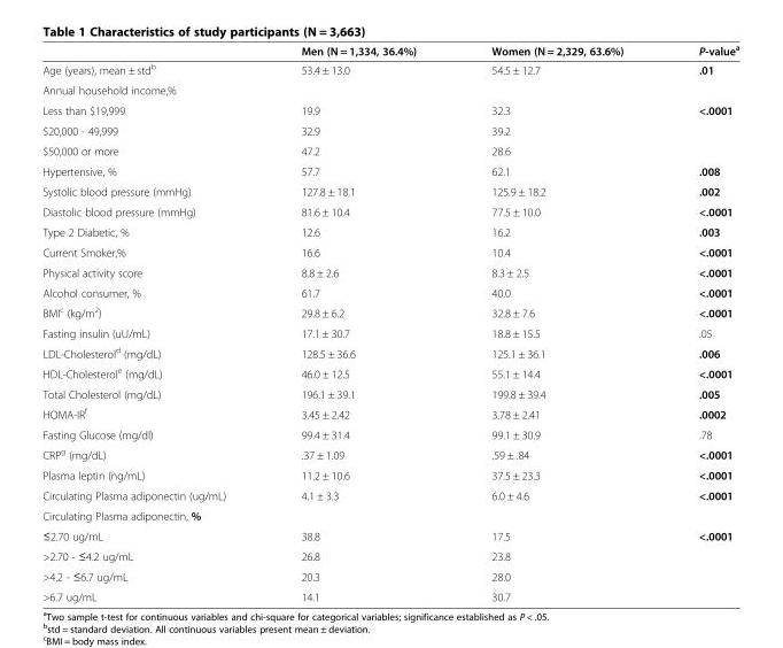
<table><thead><tr><td></td><td>Men (N = 1,334, 36.4%)</td><td>Women (N = 2,329, 63.6%)</td><td>P-value<sup>a</sup></td></tr></thead><tbody><tr><td>Age (years), mean ± std<sup>b</sup></td><td>53.4 ± 13.0</td><td>54.5 ± 12.7</td><td>.01</td></tr><tr><td colspan="4">Annual household income,%</td></tr><tr><td>Less than $19,999</td><td>19.9</td><td>32.3</td><td rowspan="3">&lt;.0001</td></tr><tr><td>$20,000 - 49,999</td><td>32.9</td><td>39.2</td></tr><tr><td>$50,000 or more</td><td>47.2</td><td>28.6</td></tr><tr><td>Hypertensive, %</td><td>57.7</td><td>62.1</td><td>.008</td></tr><tr><td>Systolic blood pressure (mmHg)</td><td>127.8 ± 18.1</td><td>125.9 ± 18.2</td><td>.002</td></tr><tr><td>Diastolic blood pressure (mmHg)</td><td>81.6 ± 10.4</td><td>77.5 ± 10.0</td><td>&lt;.0001</td></tr><tr><td>Type 2 Diabetic, %</td><td>12.6</td><td>16.2</td><td>.003</td></tr><tr><td>Current Smoker,%</td><td>16.6</td><td>10.4</td><td>&lt;.0001</td></tr><tr><td>Physical activity score</td><td>8.8 ± 2.6</td><td>8.3 ± 2.5</td><td>&lt;.0001</td></tr><tr><td>Alcohol consumer, %</td><td>61.7</td><td>40.0</td><td>&lt;.0001</td></tr><tr><td>BMI<sup>c</sup> (kg/m<sup>2</sup>)</td><td>29.8 ± 6.2</td><td>32.8 ± 7.6</td><td>&lt;.0001</td></tr><tr><td>Fasting insulin (uU/mL)</td><td>17.1 ± 30.7</td><td>18.8 ± 15.5</td><td>.05</td></tr><tr><td>LDL-Cholesterol<sup>d</sup> (mg/dL)</td><td>128.5 ± 36.6</td><td>125.1 ± 36.1</td><td>.006</td></tr><tr><td>HDL-Cholesterol<sup>e</sup> (mg/dL)</td><td>46.0 ± 12.5</td><td>55.1 ± 14.4</td><td>&lt;.0001</td></tr><tr><td>Total Cholesterol (mg/dL)</td><td>196.1 ± 39.1</td><td>199.8 ± 39.4</td><td>.005</td></tr><tr><td>HOMA-IR<sup>f</sup></td><td>3.45 ± 2.42</td><td>3.78 ± 2.41</td><td>.0002</td></tr><tr><td>Fasting Glucose (mg/dl)</td><td>99.4 ± 31.4</td><td>99.1 ± 30.9</td><td>.78</td></tr><tr><td>CRP<sup>g</sup> (mg/dL)</td><td>.37 ± 1.09</td><td>.59 ± .84</td><td>&lt;.0001</td></tr><tr><td>Plasma leptin (ng/mL)</td><td>11.2 ± 10.6</td><td>37.5 ± 23.3</td><td>&lt;.0001</td></tr><tr><td>Circulating Plasma adiponectin (ug/mL)</td><td>4.1 ± 3.3</td><td>6.0 ± 4.6</td><td>&lt;.0001</td></tr><tr><td colspan="4">Circulating Plasma adiponectin, %</td></tr><tr><td>≤2.70 ug/mL</td><td>38.8</td><td>17.5</td><td>&lt;.0001</td></tr><tr><td>&gt;2.70 - ≤4.2 ug/mL</td><td>26.8</td><td>23.8</td><td></td></tr><tr><td>&gt;4.2 - ≤6.7 ug/mL</td><td>20.3</td><td>28.0</td><td></td></tr><tr><td>&gt;6.7 ug/mL</td><td>14.1</td><td>30.7</td><td></td></tr></tbody></table>